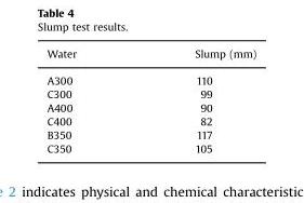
<table><thead><tr><td>Water</td><td>Slump (mm)</td></tr></thead><tbody><tr><td>A300</td><td>110</td></tr><tr><td>C300</td><td>99</td></tr><tr><td>A400</td><td>90</td></tr><tr><td>C400</td><td>82</td></tr><tr><td>B350</td><td>117</td></tr><tr><td>C350</td><td>105</td></tr></tbody></table>